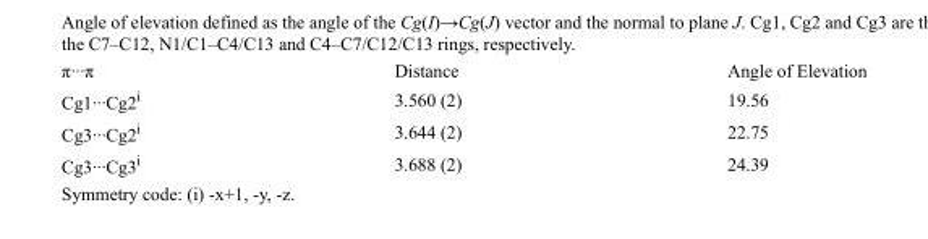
<table><tbody><tr><td>π···π</td><td>Distance</td><td>Angle of Elevation</td></tr><tr><td>Cg1···Cg2<sup>i</sup></td><td>3.560 (2)</td><td>19.56</td></tr><tr><td>Cg3···Cg2<sup>i</sup></td><td>3.644 (2)</td><td>22.75</td></tr><tr><td>Cg3···Cg3<sup>i</sup></td><td>3.688 (2)</td><td>24.39</td></tr></tbody></table>